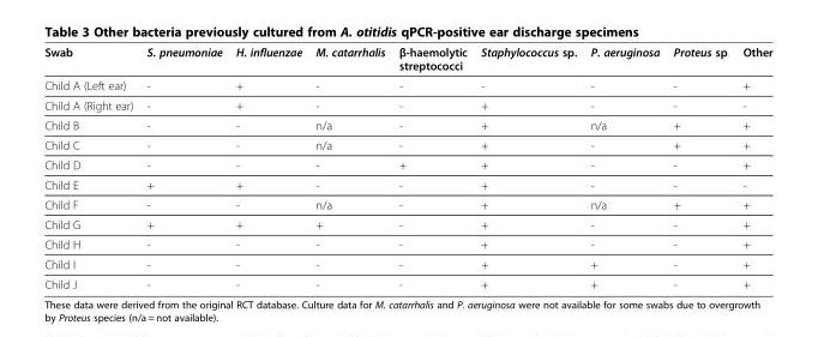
<table><thead><tr><td>Swab</td><td>S. pneumoniae</td><td>H. influenzae</td><td>M. catarrhalis</td><td>β-haemolytic streptococci</td><td>Staphylococcus sp.</td><td>P. aeruginosa</td><td>Proteus sp.</td><td>Other</td></tr></thead><tbody><tr><td>Child A (Left ear)</td><td>-</td><td>+</td><td>-</td><td>-</td><td>-</td><td>-</td><td>-</td><td>+</td></tr><tr><td>Child A (Right ear)</td><td>-</td><td>+</td><td>-</td><td>-</td><td>+</td><td>-</td><td>-</td><td>-</td></tr><tr><td>Child B</td><td>-</td><td>-</td><td>n/a</td><td>-</td><td>+</td><td>n/a</td><td>+</td><td>+</td></tr><tr><td>Child C</td><td>-</td><td>-</td><td>n/a</td><td>-</td><td>+</td><td>-</td><td>+</td><td>+</td></tr><tr><td>Child D</td><td>-</td><td>-</td><td>-</td><td>+</td><td>+</td><td>-</td><td>-</td><td>+</td></tr><tr><td>Child E</td><td>+</td><td>+</td><td>-</td><td>-</td><td>+</td><td>-</td><td>-</td><td>-</td></tr><tr><td>Child F</td><td>-</td><td>-</td><td>n/a</td><td>-</td><td>+</td><td>n/a</td><td>+</td><td>+</td></tr><tr><td>Child G</td><td>+</td><td>+</td><td>+</td><td>-</td><td>+</td><td>-</td><td>-</td><td>+</td></tr><tr><td>Child H</td><td>-</td><td>-</td><td>-</td><td>-</td><td>+</td><td>-</td><td>-</td><td>+</td></tr><tr><td>Child I</td><td>-</td><td>-</td><td>-</td><td>-</td><td>+</td><td>+</td><td>-</td><td>+</td></tr><tr><td>Child J</td><td>-</td><td>-</td><td>-</td><td>-</td><td>+</td><td>+</td><td>-</td><td>+</td></tr></tbody></table>